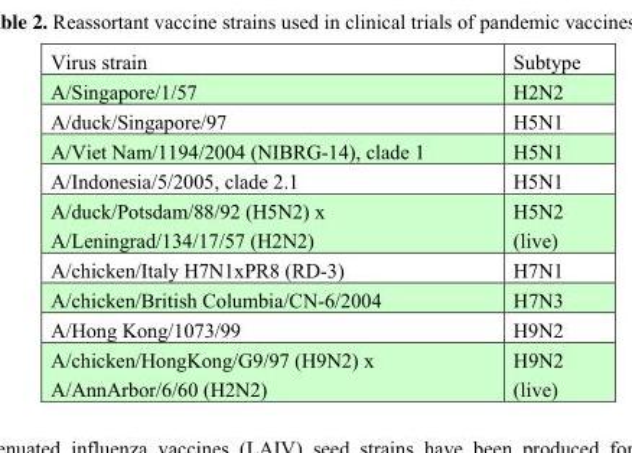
<table><thead><tr><td>Virus strain</td><td>Subtype</td></tr></thead><tbody><tr><td>A/Singapore/1/57</td><td>H2N2</td></tr><tr><td>A/duck/Singapore/97</td><td>H5N1</td></tr><tr><td>A/Viet Nam/1194/2004 (NIBRG-14), clade 1</td><td>H5N1</td></tr><tr><td>A/Indonesia/5/2005, clade 2.1</td><td>H5N1</td></tr><tr><td>A/duck/Potsdam/88/92 (H5N2) x A/Leningrad/134/17/57 (H2N2)</td><td>H5N2 (live)</td></tr><tr><td>A/chicken/Italy H7N1xPR8 (RD-3)</td><td>H7N1</td></tr><tr><td>A/chicken/British Columbia/CN-6/2004</td><td>H7N3</td></tr><tr><td>A/Hong Kong/1073/99</td><td>H9N2</td></tr><tr><td>A/chicken/HongKong/G9/97 (H9N2) x A/AnnArbor/6/60 (H2N2)</td><td>H9N2 (live)</td></tr></tbody></table>